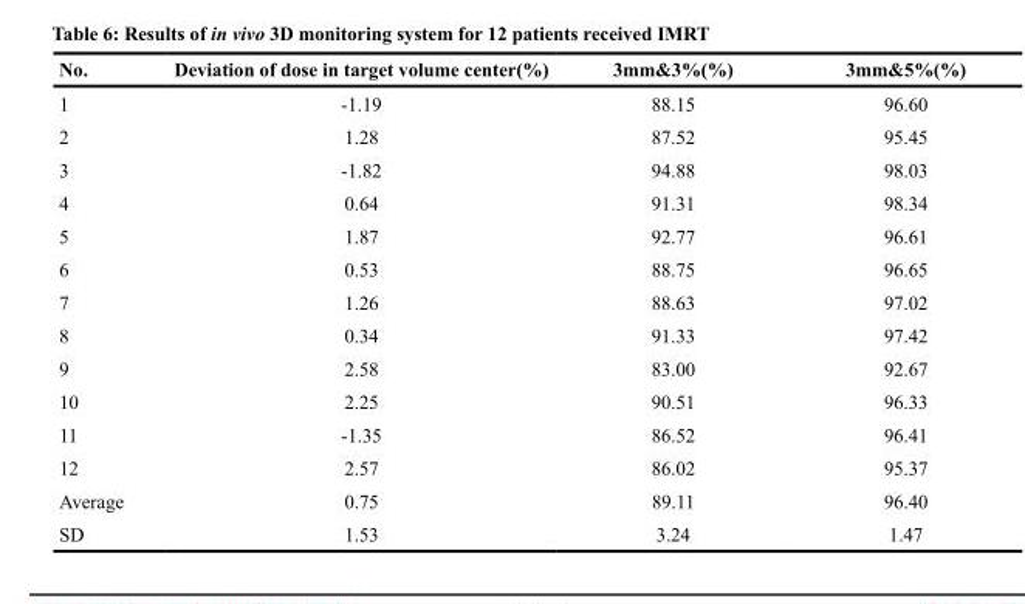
<table><thead><tr><td>No.</td><td>Deviation of dose in target volume center(%)</td><td>3mm&amp;3%(%)</td><td>3mm&amp;5%(%)</td></tr></thead><tbody><tr><td>1</td><td>-1.19</td><td>88.15</td><td>96.60</td></tr><tr><td>2</td><td>1.28</td><td>87.52</td><td>95.45</td></tr><tr><td>3</td><td>-1.82</td><td>94.88</td><td>98.03</td></tr><tr><td>4</td><td>0.64</td><td>91.31</td><td>98.34</td></tr><tr><td>5</td><td>1.87</td><td>92.77</td><td>96.61</td></tr><tr><td>6</td><td>0.53</td><td>88.75</td><td>96.65</td></tr><tr><td>7</td><td>1.26</td><td>88.63</td><td>97.02</td></tr><tr><td>8</td><td>0.34</td><td>91.33</td><td>97.42</td></tr><tr><td>9</td><td>2.58</td><td>83.00</td><td>92.67</td></tr><tr><td>10</td><td>2.25</td><td>90.51</td><td>96.33</td></tr><tr><td>11</td><td>-1.35</td><td>86.52</td><td>96.41</td></tr><tr><td>12</td><td>2.57</td><td>86.02</td><td>95.37</td></tr><tr><td>Average</td><td>0.75</td><td>89.11</td><td>96.40</td></tr><tr><td>SD</td><td>1.53</td><td>3.24</td><td>1.47</td></tr></tbody></table>